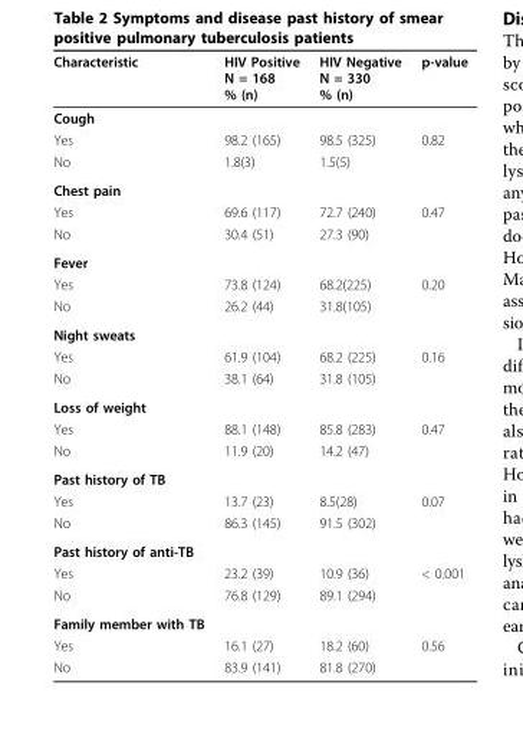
<table><thead><tr><td>Characteristic</td><td>HIV Positive N = 168 % (n)</td><td>HIV Negative N = 330 % (n)</td><td>p-value</td></tr></thead><tbody><tr><td colspan="4">Cough</td></tr><tr><td>Yes</td><td>98.2 (165)</td><td>98.5 (325)</td><td>0.82</td></tr><tr><td>No</td><td>1.8(3)</td><td>1.5(5)</td><td></td></tr><tr><td colspan="4">Chest pain</td></tr><tr><td>Yes</td><td>69.6 (117)</td><td>72.7 (240)</td><td>0.47</td></tr><tr><td>No</td><td>30.4 (51)</td><td>27.3 (90)</td><td></td></tr><tr><td colspan="4">Fever</td></tr><tr><td>Yes</td><td>73.8 (124)</td><td>68.2(225)</td><td>0.20</td></tr><tr><td>No</td><td>26.2 (44)</td><td>31.8(105)</td><td></td></tr><tr><td colspan="4">Night sweats</td></tr><tr><td>Yes</td><td>61.9 (104)</td><td>68.2 (225)</td><td>0.16</td></tr><tr><td>No</td><td>38.1 (64)</td><td>31.8 (105)</td><td></td></tr><tr><td colspan="4">Loss of weight</td></tr><tr><td>Yes</td><td>88.1 (148)</td><td>85.8 (283)</td><td>0.47</td></tr><tr><td>No</td><td>11.9 (20)</td><td>14.2 (47)</td><td></td></tr><tr><td colspan="4">Past history of TB</td></tr><tr><td>Yes</td><td>13.7 (23)</td><td>8.5(28)</td><td>0.07</td></tr><tr><td>No</td><td>86.3 (145)</td><td>91.5 (302)</td><td></td></tr><tr><td colspan="4">Past history of anti-TB</td></tr><tr><td>Yes</td><td>23.2 (39)</td><td>10.9 (36)</td><td>&lt; 0.001</td></tr><tr><td>No</td><td>76.8 (129)</td><td>89.1 (294)</td><td></td></tr><tr><td colspan="4">Family member with TB</td></tr><tr><td>Yes</td><td>16.1 (27)</td><td>18.2 (60)</td><td>0.56</td></tr><tr><td>No</td><td>83.9 (141)</td><td>81.8 (270)</td><td></td></tr></tbody></table>